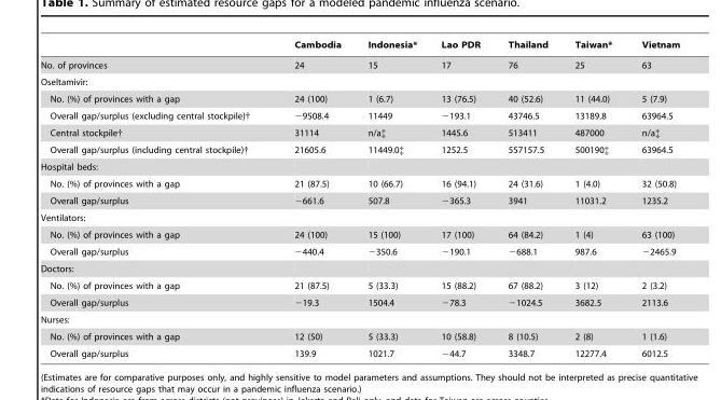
<table><thead><tr><td></td><td>Cambodia</td><td>Indonesia*</td><td>Lao PDR</td><td>Thailand</td><td>Taiwan*</td><td>Vietnam</td></tr></thead><tbody><tr><td>No. of provinces</td><td>24</td><td>15</td><td>17</td><td>76</td><td>25</td><td>63</td></tr><tr><td colspan="7">Oseltamivir:</td></tr><tr><td>No. (%) of provinces with a gap</td><td>24 (100)</td><td>1 (6.7)</td><td>13 (76.5)</td><td>40 (52.6)</td><td>11 (44.0)</td><td>5 (7.9)</td></tr><tr><td>Overall gap/surplus (excluding central stockpile)†</td><td>−9508.4</td><td>11449</td><td>−193.1</td><td>43746.5</td><td>13189.8</td><td>63964.5</td></tr><tr><td>Central stockpile†</td><td>31114</td><td>n/a‡</td><td>1445.6</td><td>513411</td><td>487000</td><td>n/a‡</td></tr><tr><td>Overall gap/surplus (including central stockpile)†</td><td>21605.6</td><td>11449.0‡</td><td>1252.5</td><td>557157.5</td><td>500190‡</td><td>63964.5</td></tr><tr><td colspan="7">Hospital beds:</td></tr><tr><td>No. (%) of provinces with a gap</td><td>21 (87.5)</td><td>10 (66.7)</td><td>16 (94.1)</td><td>24 (31.6)</td><td>1 (4.0)</td><td>32 (50.8)</td></tr><tr><td>Overall gap/surplus</td><td>−661.6</td><td>507.8</td><td>−365.3</td><td>3941</td><td>11031.2</td><td>1235.2</td></tr><tr><td colspan="7">Ventilators:</td></tr><tr><td>No. (%) of provinces with a gap</td><td>24 (100)</td><td>15 (100)</td><td>17 (100)</td><td>64 (84.2)</td><td>1 (4)</td><td>63 (100)</td></tr><tr><td>Overall gap/surplus</td><td>−440.4</td><td>−350.6</td><td>−190.1</td><td>−688.1</td><td>987.6</td><td>−2465.9</td></tr><tr><td colspan="7">Doctors:</td></tr><tr><td>No. (%) of provinces with a gap</td><td>21 (87.5)</td><td>5 (33.3)</td><td>15 (88.2)</td><td>67 (88.2)</td><td>3 (12)</td><td>2 (3.2)</td></tr><tr><td>Overall gap/surplus</td><td>−19.3</td><td>1504.4</td><td>−78.3</td><td>−1024.5</td><td>3682.5</td><td>2113.6</td></tr><tr><td colspan="7">Nurses:</td></tr><tr><td>No. (%) of provinces with a gap</td><td>12 (50)</td><td>5 (33.3)</td><td>10 (58.8)</td><td>8 (10.5)</td><td>2 (8)</td><td>1 (1.6)</td></tr><tr><td>Overall gap/surplus</td><td>139.9</td><td>1021.7</td><td>−44.7</td><td>3348.7</td><td>12277.4</td><td>6012.5</td></tr></tbody></table>